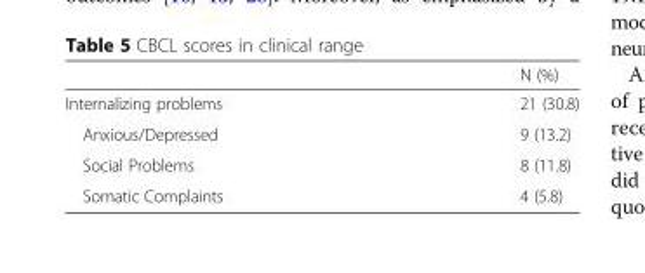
<table><thead><tr><td></td><td>N (%)</td></tr></thead><tbody><tr><td>Internalizing problems</td><td>21 (30.8)</td></tr><tr><td>Anxious/Depressed</td><td>9 (13.2)</td></tr><tr><td>Social Problems</td><td>8 (11.8)</td></tr><tr><td>Somatic Complaints</td><td>4 (5.8)</td></tr></tbody></table>